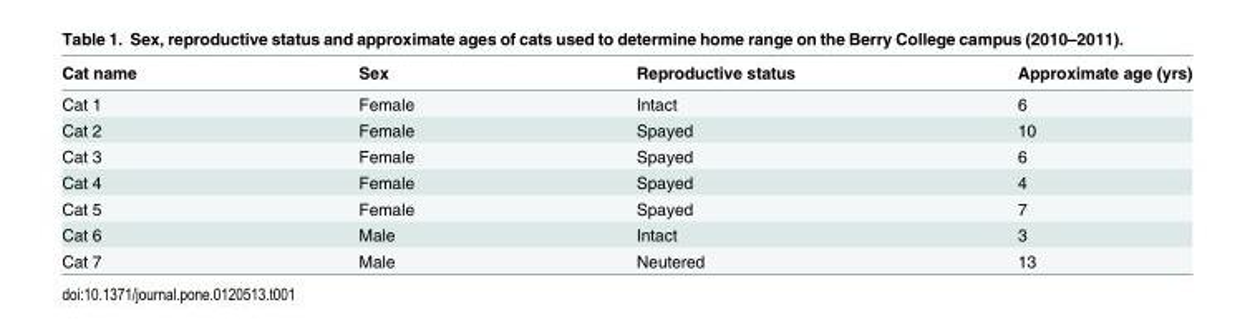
<table><thead><tr><td>Cat name</td><td>Sex</td><td>Reproductive status</td><td>Approximate age (yrs)</td></tr></thead><tbody><tr><td>Cat 1</td><td>Female</td><td>Intact</td><td>6</td></tr><tr><td>Cat 2</td><td>Female</td><td>Spayed</td><td>10</td></tr><tr><td>Cat 3</td><td>Female</td><td>Spayed</td><td>6</td></tr><tr><td>Cat 4</td><td>Female</td><td>Spayed</td><td>4</td></tr><tr><td>Cat 5</td><td>Female</td><td>Spayed</td><td>7</td></tr><tr><td>Cat 6</td><td>Male</td><td>Intact</td><td>3</td></tr><tr><td>Cat 7</td><td>Male</td><td>Neutered</td><td>13</td></tr></tbody></table>